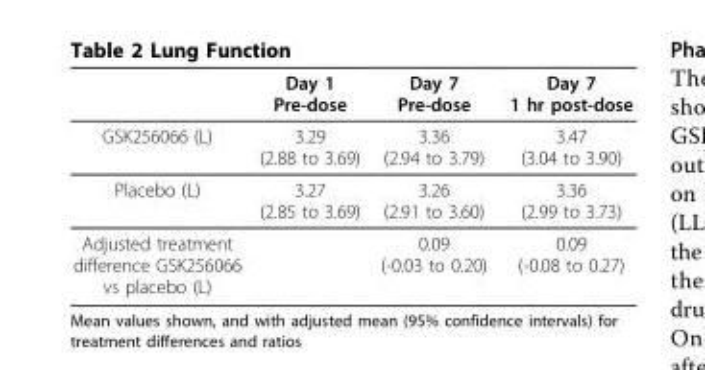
<table><thead><tr><td></td><td>Day 1 Pre-dose</td><td>Day 7 Pre-dose</td><td>Day 7 1 hr post-dose</td></tr></thead><tbody><tr><td>GSK256066 (L)</td><td>3.29 (2.88 to 3.69)</td><td>3.36 (2.94 to 3.79)</td><td>3.47 (3.04 to 3.90)</td></tr><tr><td>Placebo (L)</td><td>3.27 (2.85 to 3.69)</td><td>3.26 (2.91 to 3.60)</td><td>3.36 (2.99 to 3.73)</td></tr><tr><td>Adjusted treatment difference GSK256066 vs placebo (L)</td><td></td><td>0.09 (-0.03 to 0.20)</td><td>0.09 (-0.08 to 0.27)</td></tr></tbody></table>